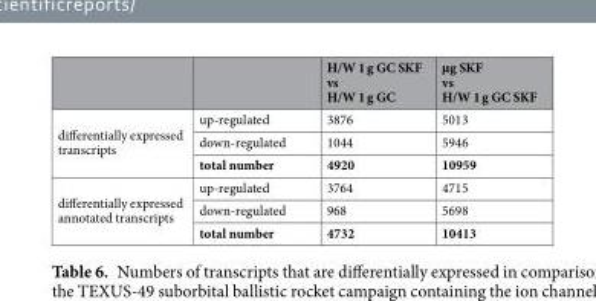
<table><thead><tr><td></td><td></td><td>H/W 1 g GC SKF vs H/W 1 g GC</td><td>µg SKF vs H/W 1 g GC SKF</td></tr></thead><tbody><tr><td rowspan="3">differentially expressed transcripts</td><td>up-regulated</td><td>3876</td><td>5013</td></tr><tr><td>down-regulated</td><td>1044</td><td>5946</td></tr><tr><td>total number</td><td>4920</td><td>10959</td></tr><tr><td rowspan="3">differentially expressed annotated transcripts</td><td>up-regulated</td><td>3764</td><td>4715</td></tr><tr><td>down-regulated</td><td>968</td><td>5698</td></tr><tr><td>total number</td><td>4732</td><td>10413</td></tr></tbody></table>